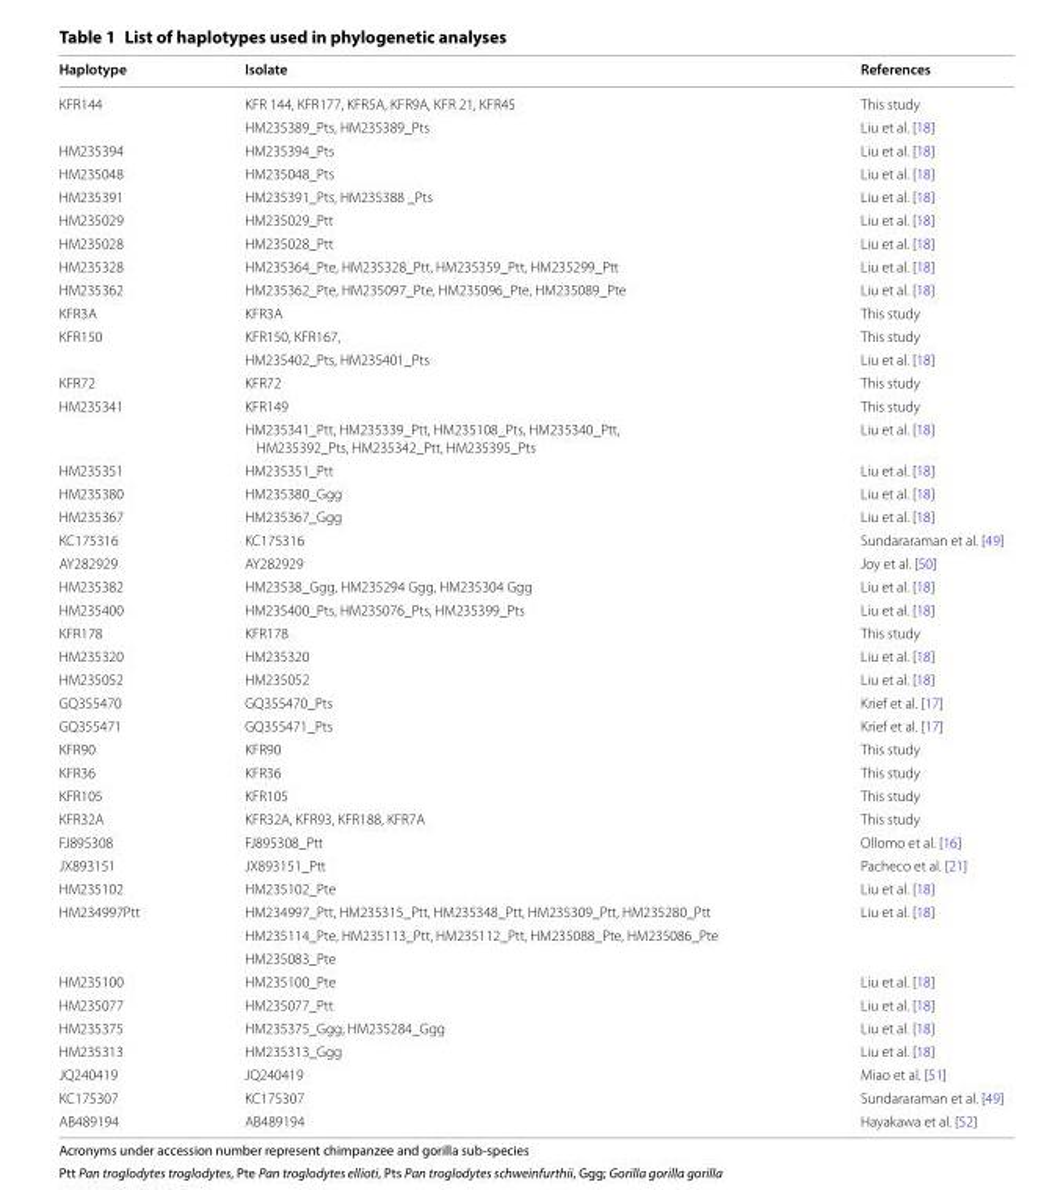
<table><thead><tr><td>Haplotype</td><td>Isolate</td><td>References</td></tr></thead><tbody><tr><td rowspan="2">KFR144</td><td>KFR 144, KFR177, KFR5A, KFR9A, KFR 21, KFR45</td><td>This study</td></tr><tr><td>HM235389_Pts, HM235389_Pts</td><td>Liu et al. [18]</td></tr><tr><td>HM235394</td><td>HM235394_Pts</td><td>Liu et al. [18]</td></tr><tr><td>HM235048</td><td>HM235048_Pts</td><td>Liu et al. [18]</td></tr><tr><td>HM235391</td><td>HM235391_Pts, HM235388 _Pts</td><td>Liu et al. [18]</td></tr><tr><td>HM235029</td><td>HM235029_Ptt</td><td>Liu et al. [18]</td></tr><tr><td>HM235028</td><td>HM235028_Ptt</td><td>Liu et al. [18]</td></tr><tr><td>HM235328</td><td>HM235364_Pte, HM235328_Ptt, HM235359_Ptt, HM235299_Ptt</td><td>Liu et al. [18]</td></tr><tr><td>HM235362</td><td>HM235362_Pte, HM235097_Pte, HM235096_Pte, HM235089_Pte</td><td>Liu et al. [18]</td></tr><tr><td>KFR3A</td><td>KFR3A</td><td>This study</td></tr><tr><td rowspan="2">KFR150</td><td>KFR150, KFR167,</td><td>This study</td></tr><tr><td>HM235402_Pts, HM235401_Pts</td><td>Liu et al. [18]</td></tr><tr><td>KFR72</td><td>KFR72</td><td>This study</td></tr><tr><td rowspan="2">HM235341</td><td>KFR149</td><td>This study</td></tr><tr><td>HM235341_Ptt, HM235339_Ptt, HM235108_Pts, HM235340_Ptt, HM235392_Pts, HM235342_Ptt, HM235395_Pts</td><td>Liu et al. [18]</td></tr><tr><td>HM235351</td><td>HM235351_Ptt</td><td>Liu et al. [18]</td></tr><tr><td>HM235380</td><td>HM235380_Ggg</td><td>Liu et al. [18]</td></tr><tr><td>HM235367</td><td>HM235367_Ggg</td><td>Liu et al. [18]</td></tr><tr><td>KC175316</td><td>KC175316</td><td>Sundararaman et al. [49]</td></tr><tr><td>AY282929</td><td>AY282929</td><td>Joy et al. [50]</td></tr><tr><td>HM235382</td><td>HM23538_Ggg, HM235294 Ggg, HM235304 Ggg</td><td>Liu et al. [18]</td></tr><tr><td>HM235400</td><td>HM235400_Pts, HM235076_Pts, HM235399_Pts</td><td>Liu et al. [18]</td></tr><tr><td>KFR178</td><td>KFR178</td><td>This study</td></tr><tr><td>HM235320</td><td>HM235320</td><td>Liu et al. [18]</td></tr><tr><td>HM235052</td><td>HM235052</td><td>Liu et al. [18]</td></tr><tr><td>GQ355470</td><td>GQ355470_Pts</td><td>Krief et al. [17]</td></tr><tr><td>GQ355471</td><td>GQ355471_Pts</td><td>Krief et al. [17]</td></tr><tr><td>KFR90</td><td>KFR90</td><td>This study</td></tr><tr><td>KFR36</td><td>KFR36</td><td>This study</td></tr><tr><td>KFR105</td><td>KFR105</td><td>This study</td></tr><tr><td>KFR32A</td><td>KFR32A, KFR93, KFR188, KFR7A</td><td>This study</td></tr><tr><td>FJ895308</td><td>FJ895308_Ptt</td><td>Ollomo et al. [16]</td></tr><tr><td>JX893151</td><td>JX893151_Ptt</td><td>Pacheco et al. [21]</td></tr><tr><td>HM235102</td><td>HM235102_Pte</td><td>Liu et al. [18]</td></tr><tr><td rowspan="3">HM234997Ptt</td><td>HM234997_Ptt, HM235315_Ptt, HM235348_Ptt, HM235309_Ptt, HM235280_Ptt</td><td rowspan="3">Liu et al. [18]</td></tr><tr><td>HM235114_Pte, HM235113_Ptt, HM235112_Ptt, HM235088_Pte, HM235086_Pte</td></tr><tr><td>HM235083_Pte</td></tr><tr><td>HM235100</td><td>HM235100_Pte</td><td>Liu et al. [18]</td></tr><tr><td>HM235077</td><td>HM235077_Ptt</td><td>Liu et al. [18]</td></tr><tr><td>HM235375</td><td>HM235375_Ggg, HM235284_Ggg</td><td>Liu et al. [18]</td></tr><tr><td>HM235313</td><td>HM235313_Ggg</td><td>Liu et al. [18]</td></tr><tr><td>JQ240419</td><td>JQ240419</td><td>Miao et al. [51]</td></tr><tr><td>KC175307</td><td>KC175307</td><td>Sundararaman et al. [49]</td></tr><tr><td>AB489194</td><td>AB489194</td><td>Hayakawa et al. [52]</td></tr></tbody></table>